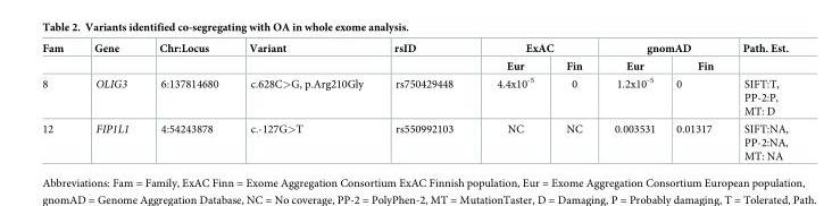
<table><thead><tr><td rowspan="2">Fam</td><td rowspan="2">Gene</td><td rowspan="2">Chr:Locus</td><td rowspan="2">Variant</td><td rowspan="2">rsID</td><td colspan="2">ExAC</td><td colspan="2">gnomAD</td><td rowspan="2">Path. Est.</td></tr><tr><td>Eur</td><td>Fin</td><td>Eur</td><td>Fin</td></tr></thead><tbody><tr><td>8</td><td>OLIG3</td><td>6:137814680</td><td>c.628C&gt;G, p.Arg210Gly</td><td>rs750429448</td><td>4.4x10<sup>-5</sup></td><td>0</td><td>1.2x10<sup>-5</sup></td><td>0</td><td>SIFT:T, PP-2:P, MT: D</td></tr><tr><td>12</td><td>FIP1L1</td><td>4:54243878</td><td>c.-127G&gt;T</td><td>rs550992103</td><td>NC</td><td>NC</td><td>0.003531</td><td>0.01317</td><td>SIFT:NA, PP-2:NA, MT: NA</td></tr></tbody></table>